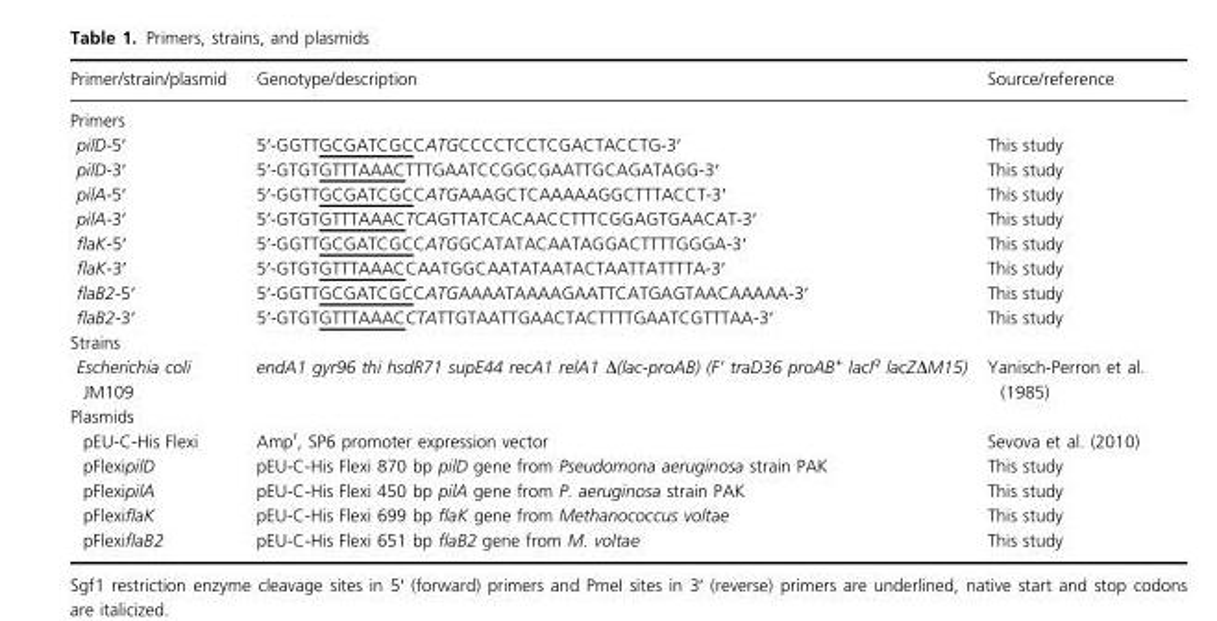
<table><thead><tr><td>Primer/strain/plasmid</td><td>Genotype/description</td><td>Source/reference</td></tr></thead><tbody><tr><td colspan="3">Primers</td></tr><tr><td>pilD-5′</td><td>5′-GGTTGCGATCGCCATGCCCCTCCTCGACTACCTG-3′</td><td>This study</td></tr><tr><td>pilD-3′</td><td>5′-GTGTGTTTAAACTTTGAATCCGGCGAATTGCAGATAGG-3′</td><td>This study</td></tr><tr><td>pilA-5′</td><td>5′-GGTTGCGATCGCCATGAAAGCTCAAAAAGGCTTTACCT-3′</td><td>This study</td></tr><tr><td>pilA-3′</td><td>5′-GTGTGTTTAAACTCAGTTATCACAACCTTTCGGAGTGAACAT-3′</td><td>This study</td></tr><tr><td>flaK-5′</td><td>5′-GGTTGCGATCGCCATGGCATATACAATAGGACTTTTGGGA-3′</td><td>This study</td></tr><tr><td>flaK-3′</td><td>5′-GTGTGTTTAAACCAATGGCAATATAATACTAATTATTTTA-3′</td><td>This study</td></tr><tr><td>flaB2-5′</td><td>5′-GGTTGCGATCGCCATGAAAATAAAAGAATTCATGAGTAACAAAAA-3′</td><td>This study</td></tr><tr><td>flaB2-3′</td><td>5′-GTGTGTTTAAACCTATTGTAATTGAACTACTTTTGAATCGTTTAA-3′</td><td>This study</td></tr><tr><td colspan="3">Strains</td></tr><tr><td>Escherichia coli JM109</td><td>endA1 gyr96 thi hsdR71 supE44 recA1 relA1 Δ(lac-proAB) (F’ traD36 proAB<sup>+</sup> lacI<sup>q</sup> lacZΔM15)</td><td>Yanisch-Perron et al. (1985)</td></tr><tr><td colspan="3">Plasmids</td></tr><tr><td>pEU-C-His Flexi</td><td>Amp<sup>r</sup>, SP6 promoter expression vector</td><td>Sevova et al. (2010)</td></tr><tr><td>pFlexipilD</td><td>pEU-C-His Flexi 870 bp pilD gene from Pseudomona aeruginosa strain PAK</td><td>This study</td></tr><tr><td>pFlexipilA</td><td>pEU-C-His Flexi 450 bp pilA gene from P. aeruginosa strain PAK</td><td>This study</td></tr><tr><td>pFlexiflaK</td><td>pEU-C-His Flexi 699 bp flaK gene from Methanococcus voltae</td><td>This study</td></tr><tr><td>pFlexiflaB2</td><td>pEU-C-His Flexi 651 bp flaB2 gene from M. voltae</td><td>This study</td></tr></tbody></table>